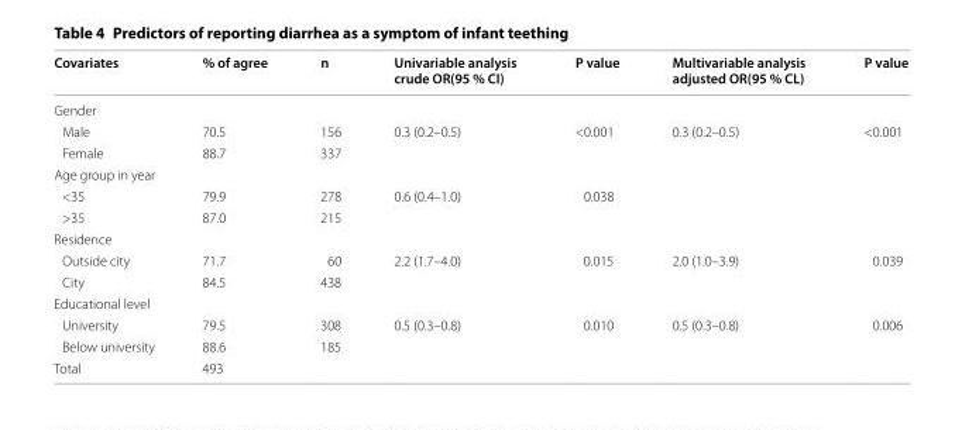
<table><thead><tr><td>Covariates</td><td>% of agree</td><td>n</td><td>Univariable analysis crude OR(95 % CI)</td><td>P value</td><td>Multivariable analysis adjusted OR(95 % CL)</td><td>P value</td></tr></thead><tbody><tr><td colspan="7">Gender</td></tr><tr><td>Male</td><td>70.5</td><td>156</td><td rowspan="2">0.3 (0.2–0.5)</td><td rowspan="2">&lt;0.001</td><td rowspan="2">0.3 (0.2–0.5)</td><td rowspan="2">&lt;0.001</td></tr><tr><td>Female</td><td>88.7</td><td>337</td></tr><tr><td colspan="7">Age group in year</td></tr><tr><td>&lt;35</td><td>79.9</td><td>278</td><td rowspan="2">0.6 (0.4–1.0)</td><td rowspan="2">0.038</td><td rowspan="2"></td><td rowspan="2"></td></tr><tr><td>&gt;35</td><td>87.0</td><td>215</td></tr><tr><td colspan="7">Residence</td></tr><tr><td>Outside city</td><td>71.7</td><td>60</td><td rowspan="2">2.2 (1.7–4.0)</td><td rowspan="2">0.015</td><td rowspan="2">2.0 (1.0–3.9)</td><td rowspan="2">0.039</td></tr><tr><td>City</td><td>84.5</td><td>438</td></tr><tr><td colspan="7">Educational level</td></tr><tr><td>University</td><td>79.5</td><td>308</td><td rowspan="2">0.5 (0.3–0.8)</td><td rowspan="2">0.010</td><td rowspan="2">0.5 (0.3–0.8)</td><td rowspan="2">0.006</td></tr><tr><td>Below university</td><td>88.6</td><td>185</td></tr><tr><td>Total</td><td>493</td><td></td><td></td><td></td><td></td><td></td></tr></tbody></table>